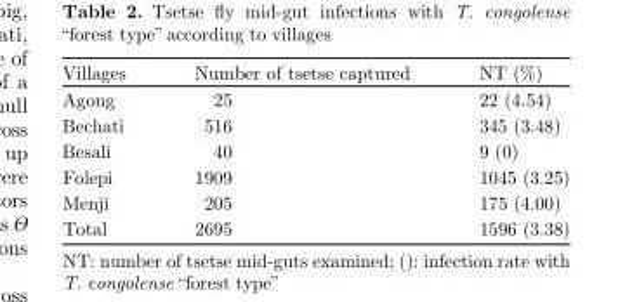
<table><thead><tr><td>Villages</td><td>Number of tsetse captured</td><td>NT (%)</td></tr></thead><tbody><tr><td>Agong</td><td>25</td><td>22 (4.54)</td></tr><tr><td>Bechati</td><td>516</td><td>345 (3.48)</td></tr><tr><td>Besali</td><td>40</td><td>9 (0)</td></tr><tr><td>Folepi</td><td>1909</td><td>1045 (3.25)</td></tr><tr><td>Menji</td><td>205</td><td>175 (4.00)</td></tr><tr><td>Total</td><td>2695</td><td>1596 (3.38)</td></tr></tbody></table>